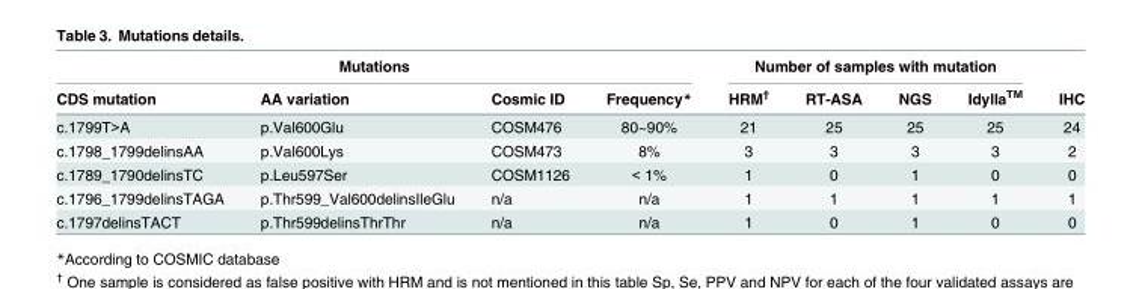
<table><thead><tr><td colspan="4">Mutations</td><td colspan="4">Number of samples with mutation</td><td rowspan="2">IHC</td></tr><tr><td>CDS mutation</td><td>AA variation</td><td>Cosmic ID</td><td>Frequency*</td><td>HRM<sup>†</sup></td><td>RT-ASA</td><td>NGS</td><td>Idylla<sup>TM</sup></td></tr></thead><tbody><tr><td>c.1799T&gt;A</td><td>p.Val600Glu</td><td>COSM476</td><td>80~90%</td><td>21</td><td>25</td><td>25</td><td>25</td><td>24</td></tr><tr><td>c.1798_1799delinsAA</td><td>p.Val600Lys</td><td>COSM473</td><td>8%</td><td>3</td><td>3</td><td>3</td><td>3</td><td>2</td></tr><tr><td>c.1789_1790delinsTC</td><td>p.Leu597Ser</td><td>COSM1126</td><td>&lt; 1%</td><td>1</td><td>0</td><td>1</td><td>0</td><td>0</td></tr><tr><td>c.1796_1799delinsTAGA</td><td>p.Thr599_Val600delinsIleGlu</td><td>n/a</td><td>n/a</td><td>1</td><td>1</td><td>1</td><td>1</td><td>1</td></tr><tr><td>c.1797delinsTACT</td><td>p.Thr599delinsThrThr</td><td>n/a</td><td>n/a</td><td>1</td><td>0</td><td>1</td><td>0</td><td>0</td></tr></tbody></table>